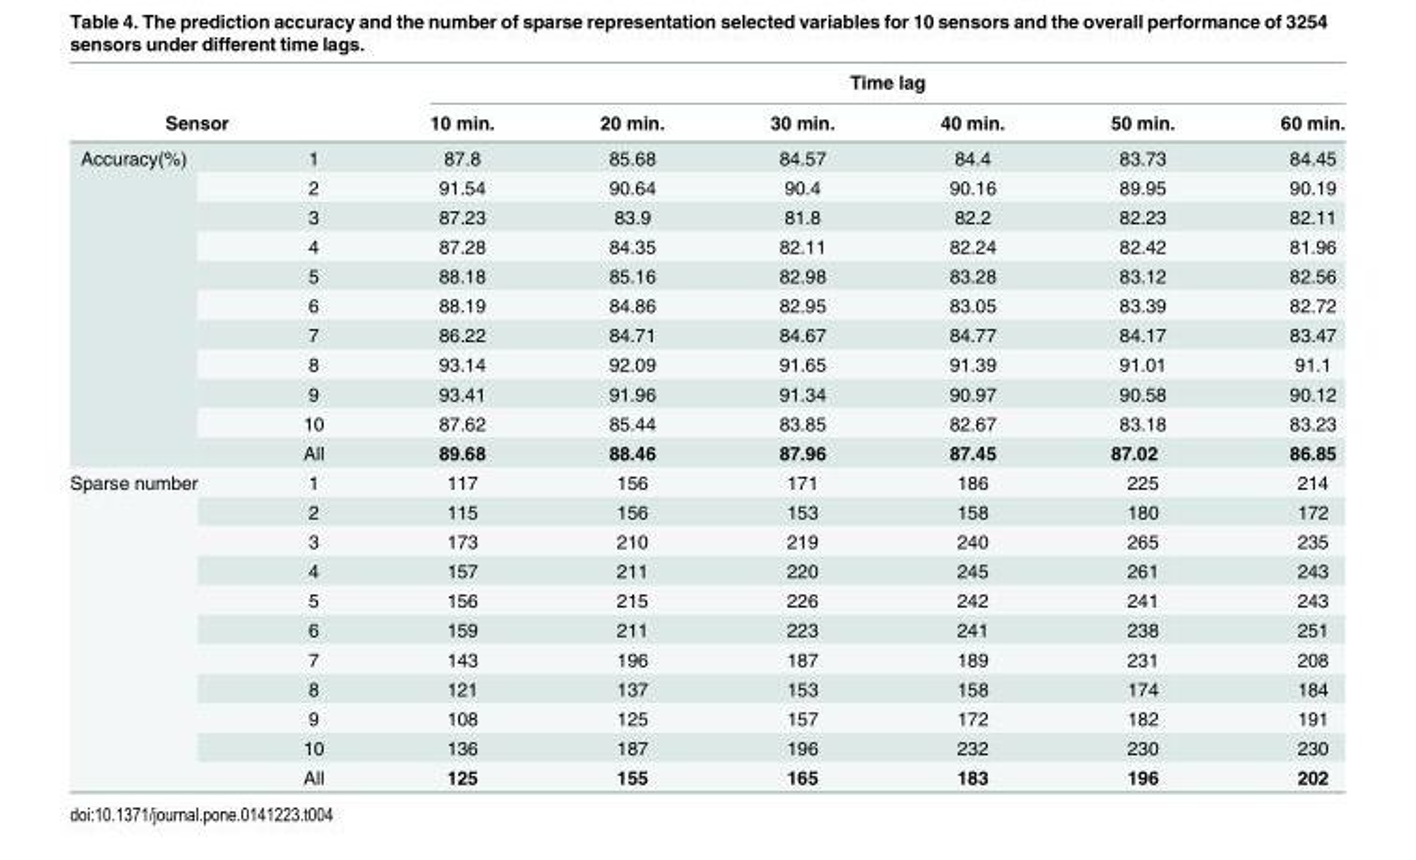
<table><thead><tr><td></td><td></td><td colspan="6">Time lag</td></tr><tr><td colspan="2">Sensor</td><td>10 min.</td><td>20 min.</td><td>30 min.</td><td>40 min.</td><td>50 min.</td><td>60 min.</td></tr></thead><tbody><tr><td rowspan="11">Accuracy(%)</td><td>1</td><td>87.8</td><td>85.68</td><td>84.57</td><td>84.4</td><td>83.73</td><td>84.45</td></tr><tr><td>2</td><td>91.54</td><td>90.64</td><td>90.4</td><td>90.16</td><td>89.95</td><td>90.19</td></tr><tr><td>3</td><td>87.23</td><td>83.9</td><td>81.8</td><td>82.2</td><td>82.23</td><td>82.11</td></tr><tr><td>4</td><td>87.28</td><td>84.35</td><td>82.11</td><td>82.24</td><td>82.42</td><td>81.96</td></tr><tr><td>5</td><td>88.18</td><td>85.16</td><td>82.98</td><td>83.28</td><td>83.12</td><td>82.56</td></tr><tr><td>6</td><td>88.19</td><td>84.86</td><td>82.95</td><td>83.05</td><td>83.39</td><td>82.72</td></tr><tr><td>7</td><td>86.22</td><td>84.71</td><td>84.67</td><td>84.77</td><td>84.17</td><td>83.47</td></tr><tr><td>8</td><td>93.14</td><td>92.09</td><td>91.65</td><td>91.39</td><td>91.01</td><td>91.1</td></tr><tr><td>9</td><td>93.41</td><td>91.96</td><td>91.34</td><td>90.97</td><td>90.58</td><td>90.12</td></tr><tr><td>10</td><td>87.62</td><td>85.44</td><td>83.85</td><td>82.67</td><td>83.18</td><td>83.23</td></tr><tr><td>All</td><td>89.68</td><td>88.46</td><td>87.96</td><td>87.45</td><td>87.02</td><td>86.85</td></tr><tr><td rowspan="11">Sparse number</td><td>1</td><td>117</td><td>156</td><td>171</td><td>186</td><td>225</td><td>214</td></tr><tr><td>2</td><td>115</td><td>156</td><td>153</td><td>158</td><td>180</td><td>172</td></tr><tr><td>3</td><td>173</td><td>210</td><td>219</td><td>240</td><td>265</td><td>235</td></tr><tr><td>4</td><td>157</td><td>211</td><td>220</td><td>245</td><td>261</td><td>243</td></tr><tr><td>5</td><td>156</td><td>215</td><td>226</td><td>242</td><td>241</td><td>243</td></tr><tr><td>6</td><td>159</td><td>211</td><td>223</td><td>241</td><td>238</td><td>251</td></tr><tr><td>7</td><td>143</td><td>196</td><td>187</td><td>189</td><td>231</td><td>208</td></tr><tr><td>8</td><td>121</td><td>137</td><td>153</td><td>158</td><td>174</td><td>184</td></tr><tr><td>9</td><td>108</td><td>125</td><td>157</td><td>172</td><td>182</td><td>191</td></tr><tr><td>10</td><td>136</td><td>187</td><td>196</td><td>232</td><td>230</td><td>230</td></tr><tr><td>All</td><td>125</td><td>155</td><td>165</td><td>183</td><td>196</td><td>202</td></tr></tbody></table>